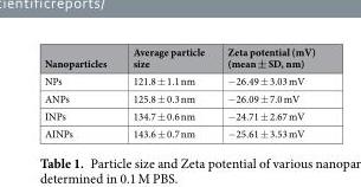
<table><thead><tr><td>Nanoparticles</td><td>Average particle size</td><td>Zeta potential (mV) (mean ± SD, nm)</td></tr></thead><tbody><tr><td>NPs</td><td>121.8 ± 1.1 nm</td><td>−26.49 ± 3.03 mV</td></tr><tr><td>ANPs</td><td>125.8 ± 0.3 nm</td><td>−26.09 ± 7.0 mV</td></tr><tr><td>INPs</td><td>134.7 ± 0.6 nm</td><td>−24.71 ± 2.67 mV</td></tr><tr><td>AINPs</td><td>143.6 ± 0.7 nm</td><td>−25.61 ± 3.53 mV</td></tr></tbody></table>